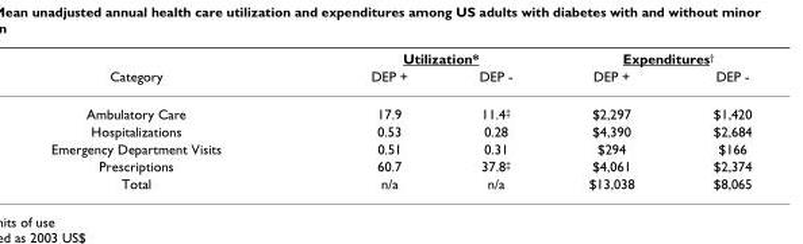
<table><thead><tr><td rowspan="2">Category</td><td colspan="2">Utilization*</td><td colspan="2">Expenditures<sup>†</sup></td></tr><tr><td>DEP +</td><td>DEP -</td><td>DEP +</td><td>DEP -</td></tr></thead><tbody><tr><td>Ambulatory Care</td><td>17.9</td><td>11.4<sup>‡</sup></td><td>$2,297</td><td>$1,420</td></tr><tr><td>Hospitalizations</td><td>0.53</td><td>0.28</td><td>$4,390</td><td>$2,684</td></tr><tr><td>Emergency Department Visits</td><td>0.51</td><td>0.31</td><td>$294</td><td>$166</td></tr><tr><td>Prescriptions</td><td>60.7</td><td>37.8<sup>‡</sup></td><td>$4,061</td><td>$2,374</td></tr><tr><td>Total</td><td>n/a</td><td>n/a</td><td>$13,038</td><td>$8,065</td></tr></tbody></table>